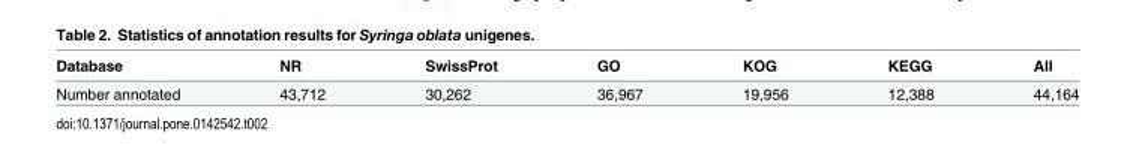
<table><thead><tr><td>Database</td><td>NR</td><td>SwissProt</td><td>GO</td><td>KOG</td><td>KEGG</td><td>All</td></tr></thead><tbody><tr><td>Number annotated</td><td>43,712</td><td>30,262</td><td>36,967</td><td>19,956</td><td>12,388</td><td>44,164</td></tr></tbody></table>